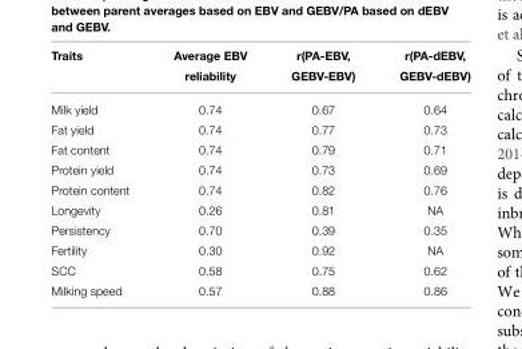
<table><thead><tr><td>Traits</td><td>Average EBV reliability</td><td>r(PA-EBV, GEBV-EBV)</td><td>r(PA-dEBV, GEBV-dEBV)</td></tr></thead><tbody><tr><td>Milk yield</td><td>0.74</td><td>0.67</td><td>0.64</td></tr><tr><td>Fat yield</td><td>0.74</td><td>0.77</td><td>0.73</td></tr><tr><td>Fat content</td><td>0.74</td><td>0.79</td><td>0.71</td></tr><tr><td>Protein yield</td><td>0.74</td><td>0.73</td><td>0.69</td></tr><tr><td>Protein content</td><td>0.74</td><td>0.82</td><td>0.76</td></tr><tr><td>Longevity</td><td>0.26</td><td>0.81</td><td>NA</td></tr><tr><td>Persistency</td><td>0.70</td><td>0.39</td><td>0.35</td></tr><tr><td>Fertility</td><td>0.30</td><td>0.92</td><td>NA</td></tr><tr><td>SCC</td><td>0.58</td><td>0.75</td><td>0.62</td></tr><tr><td>Milking speed</td><td>0.57</td><td>0.88</td><td>0.86</td></tr></tbody></table>